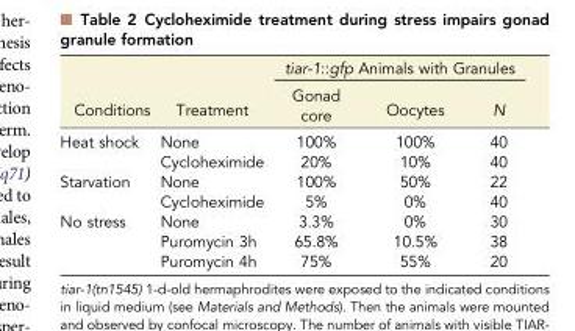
<table><thead><tr><td rowspan="2">Conditions</td><td rowspan="2">Treatment</td><td colspan="3">tiar-1::gfp Animals with Granules</td></tr><tr><td>Gonad core</td><td>Oocytes</td><td>N</td></tr></thead><tbody><tr><td rowspan="2">Heat shock</td><td>None</td><td>100%</td><td>100%</td><td>40</td></tr><tr><td>Cycloheximide</td><td>20%</td><td>10%</td><td>40</td></tr><tr><td rowspan="2">Starvation</td><td>None</td><td>100%</td><td>50%</td><td>22</td></tr><tr><td>Cycloheximide</td><td>5%</td><td>0%</td><td>40</td></tr><tr><td rowspan="3">No stress</td><td>None</td><td>3.3%</td><td>0%</td><td>30</td></tr><tr><td>Puromycin 3h</td><td>65.8%</td><td>10.5%</td><td>38</td></tr><tr><td>Puromycin 4h</td><td>75%</td><td>55%</td><td>20</td></tr></tbody></table>